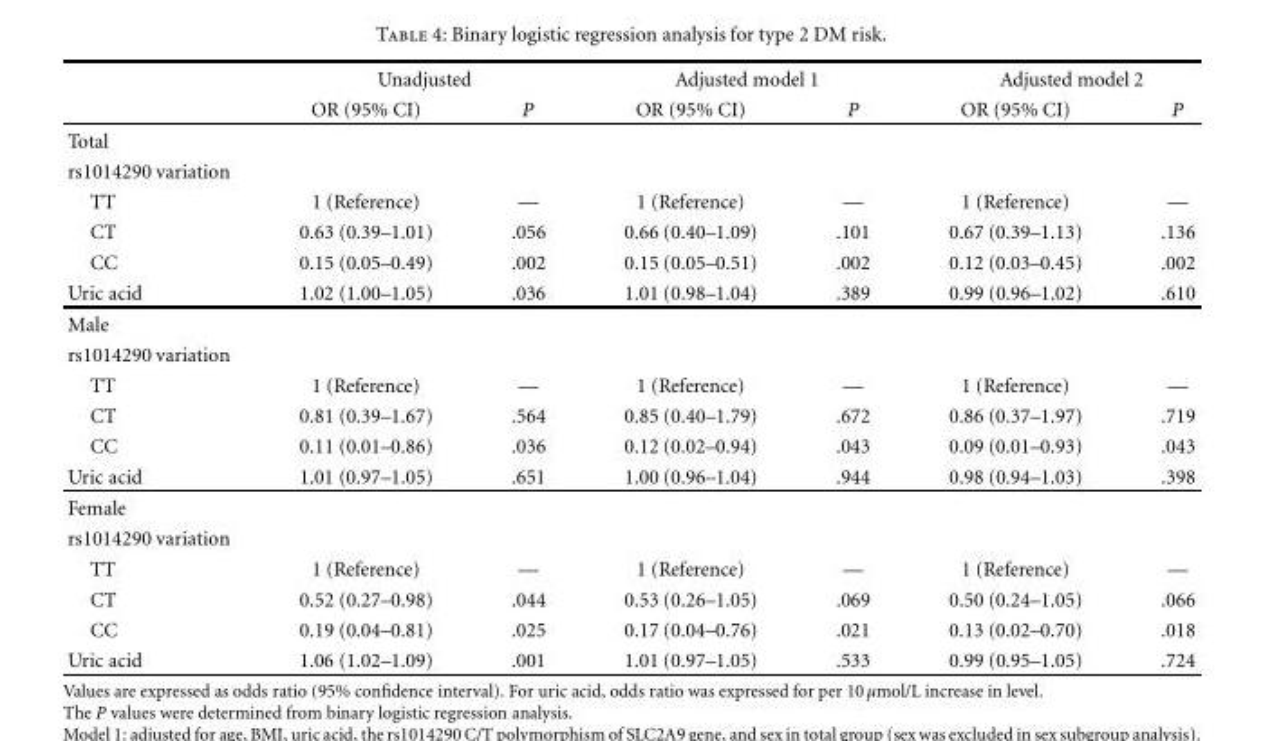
<table><thead><tr><td rowspan="2"></td><td colspan="2">Unadjusted</td><td colspan="2">Adjusted model 1</td><td colspan="2">Adjusted model 2</td></tr><tr><td>OR (95% CI)</td><td>P</td><td>OR (95% CI)</td><td>P</td><td>OR (95% CI)</td><td>P</td></tr></thead><tbody><tr><td colspan="7">Total</td></tr><tr><td colspan="7">rs1014290 variation</td></tr><tr><td>TT</td><td>1 (Reference)</td><td>—</td><td>1 (Reference)</td><td>—</td><td>1 (Reference)</td><td>—</td></tr><tr><td>CT</td><td>0.63 (0.39–1.01)</td><td>.056</td><td>0.66 (0.40–1.09)</td><td>.101</td><td>0.67 (0.39–1.13)</td><td>.136</td></tr><tr><td>CC</td><td>0.15 (0.05–0.49)</td><td>.002</td><td>0.15 (0.05–0.51)</td><td>.002</td><td>0.12 (0.03–0.45)</td><td>.002</td></tr><tr><td>Uric acid</td><td>1.02 (1.00–1.05)</td><td>.036</td><td>1.01 (0.98–1.04)</td><td>.389</td><td>0.99 (0.96–1.02)</td><td>.610</td></tr><tr><td colspan="7">Male</td></tr><tr><td colspan="7">rs1014290 variation</td></tr><tr><td>TT</td><td>1 (Reference)</td><td>—</td><td>1 (Reference)</td><td>—</td><td>1 (Reference)</td><td>—</td></tr><tr><td>CT</td><td>0.81 (0.39–1.67)</td><td>.564</td><td>0.85 (0.40–1.79)</td><td>.672</td><td>0.86 (0.37–1.97)</td><td>.719</td></tr><tr><td>CC</td><td>0.11 (0.01–0.86)</td><td>.036</td><td>0.12 (0.02–0.94)</td><td>.043</td><td>0.09 (0.01–0.93)</td><td>.043</td></tr><tr><td>Uric acid</td><td>1.01 (0.97–1.05)</td><td>.651</td><td>1.00 (0.96–1.04)</td><td>.944</td><td>0.98 (0.94–1.03)</td><td>.398</td></tr><tr><td colspan="7">Female</td></tr><tr><td colspan="7">rs1014290 variation</td></tr><tr><td>TT</td><td>1 (Reference)</td><td>—</td><td>1 (Reference)</td><td>—</td><td>1 (Reference)</td><td>—</td></tr><tr><td>CT</td><td>0.52 (0.27–0.98)</td><td>.044</td><td>0.53 (0.26–1.05)</td><td>.069</td><td>0.50 (0.24–1.05)</td><td>.066</td></tr><tr><td>CC</td><td>0.19 (0.04–0.81)</td><td>.025</td><td>0.17 (0.04–0.76)</td><td>.021</td><td>0.13 (0.02–0.70)</td><td>.018</td></tr><tr><td>Uric acid</td><td>1.06 (1.02–1.09)</td><td>.001</td><td>1.01 (0.97–1.05)</td><td>.533</td><td>0.99 (0.95–1.05)</td><td>.724</td></tr></tbody></table>